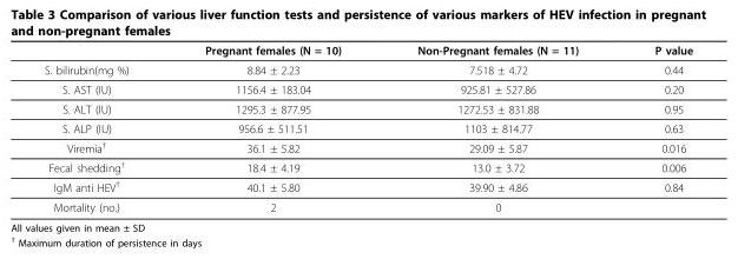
<table><thead><tr><td></td><td>Pregnant females (N = 10)</td><td>Non-Pregnant females (N = 11)</td><td>P value</td></tr></thead><tbody><tr><td>S. bilirubin(mg %)</td><td>8.84 ± 2.23</td><td>7.518 ± 4.72</td><td>0.44</td></tr><tr><td>S. AST (IU)</td><td>1156.4 ± 183.04</td><td>925.81 ± 527.86</td><td>0.20</td></tr><tr><td>S. ALT (IU)</td><td>1295.3 ± 877.95</td><td>1272.53 ± 831.88</td><td>0.95</td></tr><tr><td>S. ALP (IU)</td><td>956.6 ± 511.51</td><td>1103 ± 814.77</td><td>0.63</td></tr><tr><td>Viremia<sup>†</sup></td><td>36.1 ± 5.82</td><td>29.09 ± 5.87</td><td>0.016</td></tr><tr><td>Fecal shedding<sup>†</sup></td><td>18.4 ± 4.19</td><td>13.0 ± 3.72</td><td>0.006</td></tr><tr><td>IgM anti HEV<sup>†</sup></td><td>40.1 ± 5.80</td><td>39.90 ± 4.86</td><td>0.84</td></tr><tr><td>Mortality (no.)</td><td>2</td><td>0</td><td></td></tr></tbody></table>